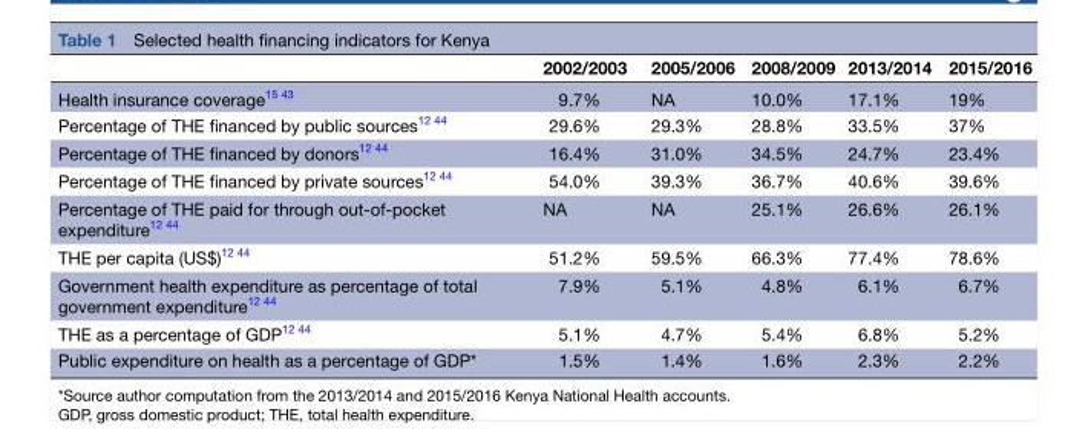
<table><thead><tr><td></td><td>2002/2003</td><td>2005/2006</td><td>2008/2009</td><td>2013/2014</td><td>2015/2016</td></tr></thead><tbody><tr><td>Health insurance coverage<sup>15 43</sup></td><td>9.7%</td><td>NA</td><td>10.0%</td><td>17.1%</td><td>19%</td></tr><tr><td>Percentage of THE financed by public sources<sup>12 44</sup></td><td>29.6%</td><td>29.3%</td><td>28.8%</td><td>33.5%</td><td>37%</td></tr><tr><td>Percentage of THE financed by donors<sup>12 44</sup></td><td>16.4%</td><td>31.0%</td><td>34.5%</td><td>24.7%</td><td>23.4%</td></tr><tr><td>Percentage of THE financed by private sources<sup>12 44</sup></td><td>54.0%</td><td>39.3%</td><td>36.7%</td><td>40.6%</td><td>39.6%</td></tr><tr><td>Percentage of THE paid for through out-of-pocket expenditure<sup>12 44</sup></td><td>NA</td><td>NA</td><td>25.1%</td><td>26.6%</td><td>26.1%</td></tr><tr><td>THE per capita (US$)<sup>12 44</sup></td><td>51.2%</td><td>59.5%</td><td>66.3%</td><td>77.4%</td><td>78.6%</td></tr><tr><td>Government health expenditure as percentage of total government expenditure<sup>12 44</sup></td><td>7.9%</td><td>5.1%</td><td>4.8%</td><td>6.1%</td><td>6.7%</td></tr><tr><td>THE as a percentage of GDP<sup>12 44</sup></td><td>5.1%</td><td>4.7%</td><td>5.4%</td><td>6.8%</td><td>5.2%</td></tr><tr><td>Public expenditure on health as a percentage of GDP*</td><td>1.5%</td><td>1.4%</td><td>1.6%</td><td>2.3%</td><td>2.2%</td></tr></tbody></table>